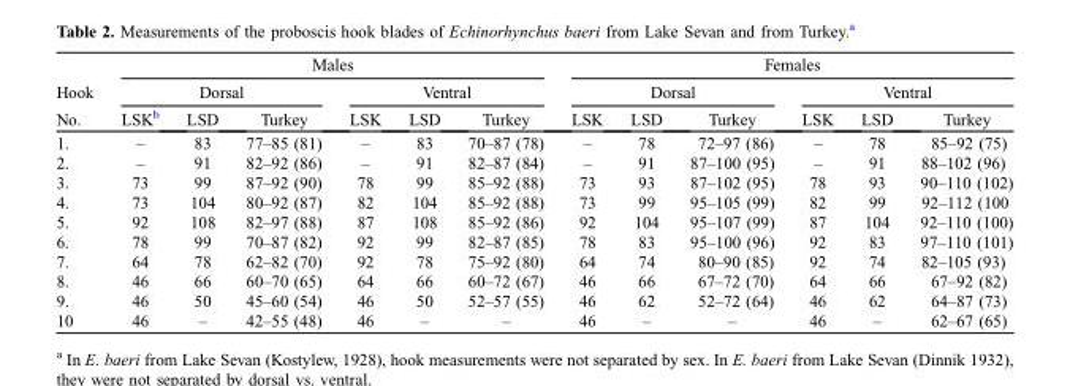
<table><thead><tr><td rowspan="3">Hook No.</td><td colspan="6">Males</td><td colspan="6">Females</td></tr><tr><td colspan="3">Dorsal</td><td colspan="3">Ventral</td><td colspan="3">Dorsal</td><td colspan="3">Ventral</td></tr><tr><td>LSK<sup>b</sup></td><td>LSD</td><td>Turkey</td><td>LSK</td><td>LSD</td><td>Turkey</td><td>LSK</td><td>LSD</td><td>Turkey</td><td>LSK</td><td>LSD</td><td>Turkey</td></tr></thead><tbody><tr><td>1.</td><td>–</td><td>83</td><td>77–85 (81)</td><td>–</td><td>83</td><td>70–87 (78)</td><td>–</td><td>78</td><td>72–97 (86)</td><td>–</td><td>78</td><td>85–92 (75)</td></tr><tr><td>2.</td><td>–</td><td>91</td><td>82–92 (86)</td><td>–</td><td>91</td><td>82–87 (84)</td><td>–</td><td>91</td><td>87–100 (95)</td><td>–</td><td>91</td><td>88–102 (96)</td></tr><tr><td>3.</td><td>73</td><td>99</td><td>87–92 (90)</td><td>78</td><td>99</td><td>85–92 (88)</td><td>73</td><td>93</td><td>87–102 (95)</td><td>78</td><td>93</td><td>90–110 (102)</td></tr><tr><td>4.</td><td>73</td><td>104</td><td>80–92 (87)</td><td>82</td><td>104</td><td>85–92 (88)</td><td>73</td><td>99</td><td>95–105 (99)</td><td>82</td><td>99</td><td>92–112 (100</td></tr><tr><td>5.</td><td>92</td><td>108</td><td>82–97 (88)</td><td>87</td><td>108</td><td>85–92 (86)</td><td>92</td><td>104</td><td>95–107 (99)</td><td>87</td><td>104</td><td>92–110 (100)</td></tr><tr><td>6.</td><td>78</td><td>99</td><td>70–87 (82)</td><td>92</td><td>99</td><td>82–87 (85)</td><td>78</td><td>83</td><td>95–100 (96)</td><td>92</td><td>83</td><td>97–110 (101)</td></tr><tr><td>7.</td><td>64</td><td>78</td><td>62–82 (70)</td><td>92</td><td>78</td><td>75–92 (80)</td><td>64</td><td>74</td><td>80–90 (85)</td><td>92</td><td>74</td><td>82–105 (93)</td></tr><tr><td>8.</td><td>46</td><td>66</td><td>60–70 (65)</td><td>64</td><td>66</td><td>60–72 (67)</td><td>46</td><td>66</td><td>67–72 (70)</td><td>64</td><td>66</td><td>67–92 (82)</td></tr><tr><td>9.</td><td>46</td><td>50</td><td>45–60 (54)</td><td>46</td><td>50</td><td>52–57 (55)</td><td>46</td><td>62</td><td>52–72 (64)</td><td>46</td><td>62</td><td>64–87 (73)</td></tr><tr><td>10</td><td>46</td><td>–</td><td>42–55 (48)</td><td>46</td><td>–</td><td>–</td><td>46</td><td>–</td><td>–</td><td>46</td><td>–</td><td>62–67 (65)</td></tr></tbody></table>